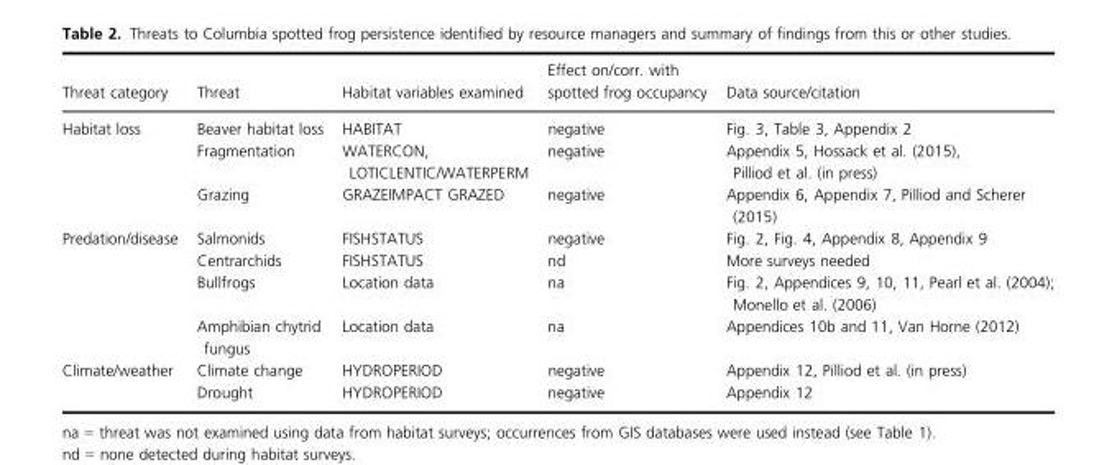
<table><thead><tr><td>Threat category</td><td>Threat</td><td>Habitat variables examined</td><td>Effect on/corr. with spotted frog occupancy</td><td>Data source/citation</td></tr></thead><tbody><tr><td rowspan="3">Habitat loss</td><td>Beaver habitat loss</td><td>HABITAT</td><td>negative</td><td>Fig. 3, Table 3, Appendix 2</td></tr><tr><td>Fragmentation</td><td>WATERCON, LOTICLENTIC/WATERPERM</td><td>negative</td><td>Appendix 5, Hossack et al. (2015), Pilliod et al. (in press)</td></tr><tr><td>Grazing</td><td>GRAZEIMPACT GRAZED</td><td>negative</td><td>Appendix 6, Appendix 7, Pilliod and Scherer (2015)</td></tr><tr><td rowspan="4">Predation/disease</td><td>Salmonids</td><td>FISHSTATUS</td><td>negative</td><td>Fig. 2, Fig. 4, Appendix 8, Appendix 9</td></tr><tr><td>Centrarchids</td><td>FISHSTATUS</td><td>nd</td><td>More surveys needed</td></tr><tr><td>Bullfrogs</td><td>Location data</td><td>na</td><td>Fig. 2, Appendices 9, 10, 11, Pearl et al. (2004); Monello et al. (2006)</td></tr><tr><td>Amphibian chytrid fungus</td><td>Location data</td><td>na</td><td>Appendices 10b and 11, Van Horne (2012)</td></tr><tr><td rowspan="2">Climate/weather</td><td>Climate change</td><td>HYDROPERIOD</td><td>negative</td><td>Appendix 12, Pilliod et al. (in press)</td></tr><tr><td>Drought</td><td>HYDROPERIOD</td><td>negative</td><td>Appendix 12</td></tr></tbody></table>